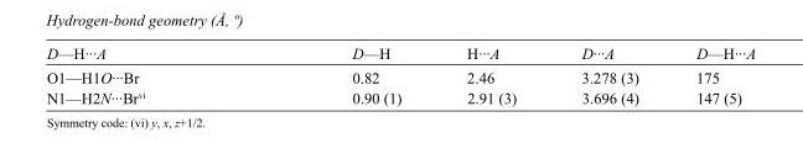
<table><tbody><tr><td>D—H···A</td><td>D—H</td><td>H···A</td><td>D···A</td><td>D—H···A</td></tr><tr><td>O1—H1O···Br</td><td>0.82</td><td>2.46</td><td>3.278 (3)</td><td>175</td></tr><tr><td>N1—H2N···Br<sup>vi</sup></td><td>0.90 (1)</td><td>2.91 (3)</td><td>3.696 (4)</td><td>147 (5)</td></tr></tbody></table>